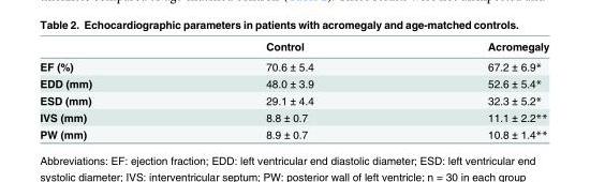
<table><thead><tr><td></td><td>Control</td><td>Acromegaly</td></tr></thead><tbody><tr><td>EF (%)</td><td>70.6 ± 5.4</td><td>67.2 ± 6.9*</td></tr><tr><td>EDD (mm)</td><td>48.0 ± 3.9</td><td>52.6 ± 5.4*</td></tr><tr><td>ESD (mm)</td><td>29.1 ± 4.4</td><td>32.3 ± 5.2*</td></tr><tr><td>IVS (mm)</td><td>8.8 ± 0.7</td><td>11.1 ± 2.2**</td></tr><tr><td>PW (mm)</td><td>8.9 ± 0.7</td><td>10.8 ± 1.4**</td></tr></tbody></table>